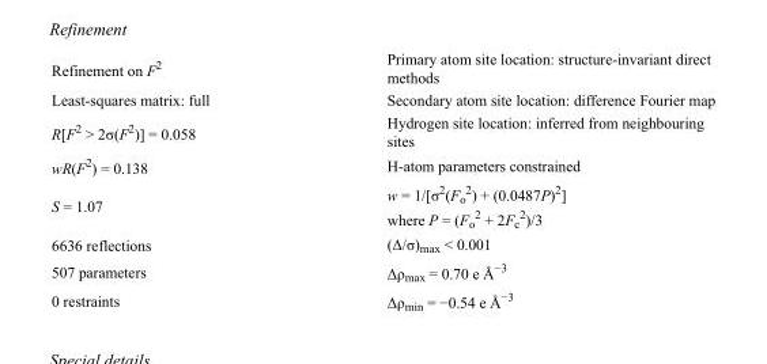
<table><tbody><tr><td>Refinement on F<sup>2</sup></td><td>Primary atom site location: structure-invariant direct methods</td></tr><tr><td>Least-squares matrix: full</td><td>Secondary atom site location: difference Fourier map</td></tr><tr><td>R[F<sup>2</sup> &gt; 2σ(F<sup>2</sup>)] = 0.058</td><td>Hydrogen site location: inferred from neighbouring sites</td></tr><tr><td>wR(F<sup>2</sup>) = 0.138</td><td>H-atom parameters constrained</td></tr><tr><td>S = 1.07</td><td>w = 1/[σ<sup>2</sup>(F<sub>o</sub> <sup>2</sup>) + (0.0487P)<sup>2</sup>] where P = (F<sub>o</sub> <sup>2</sup> + 2F<sub>c</sub> <sup>2</sup>)/3</td></tr><tr><td>6636 reflections</td><td>(Δ/σ)<sub>max</sub> &lt; 0.001</td></tr><tr><td>507 parameters</td><td>Δρ<sub>max</sub> = 0.70 e Å<sup>−3</sup></td></tr><tr><td>0 restraints</td><td>Δρ<sub>min</sub> = −0.54 e Å<sup>−3</sup></td></tr></tbody></table>